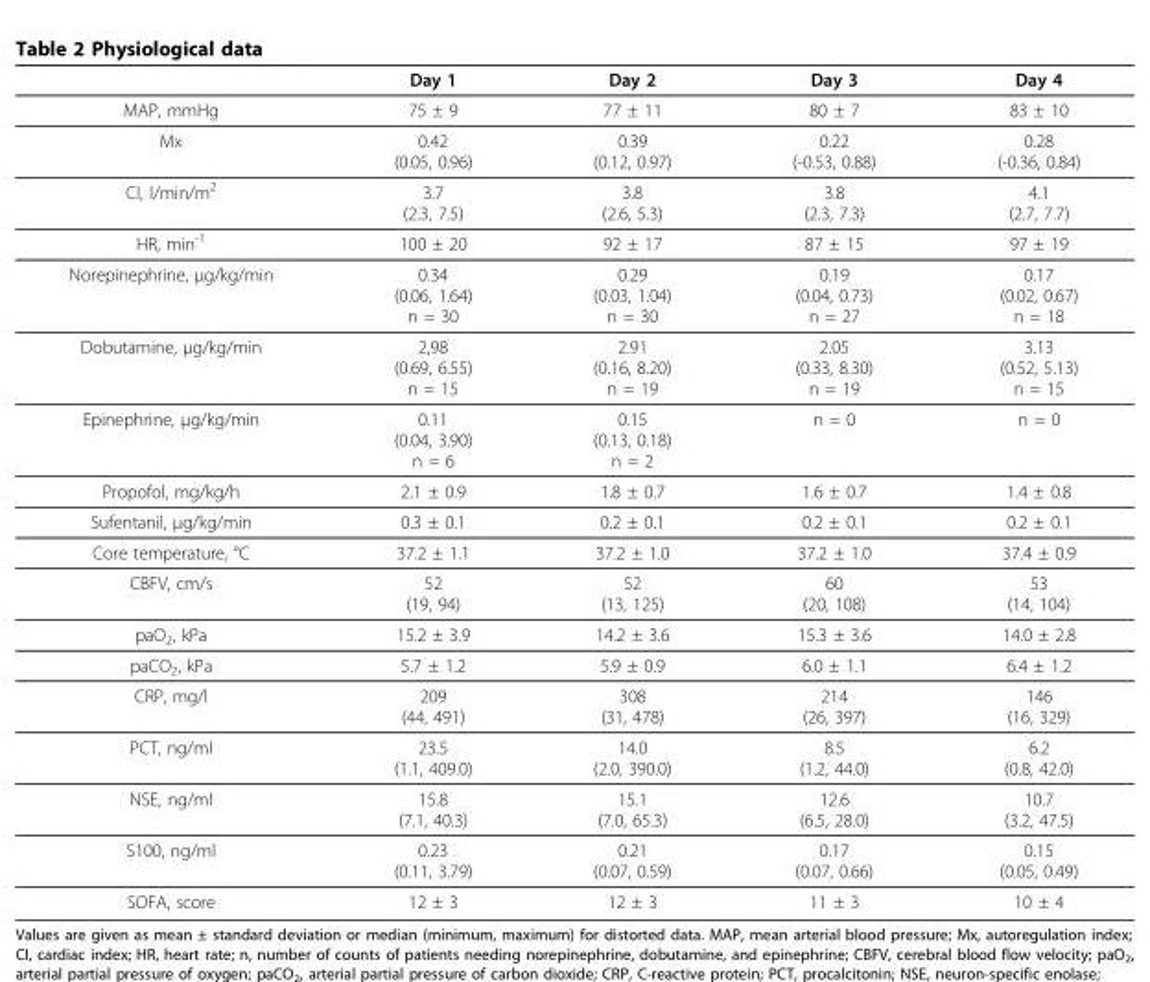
<table><thead><tr><td></td><td>Day 1</td><td>Day 2</td><td>Day 3</td><td>Day 4</td></tr></thead><tbody><tr><td>MAP, mmHg</td><td>75 ± 9</td><td>77 ± 11</td><td>80 ± 7</td><td>83 ± 10</td></tr><tr><td>Mx</td><td>0.42 (0.05, 0.96)</td><td>0.39 (0.12, 0.97)</td><td>0.22 (-0.53, 0.88)</td><td>0.28 (-0.36, 0.84)</td></tr><tr><td>CI, l/min/m<sup>2</sup></td><td>3.7 (2.3, 7.5)</td><td>3.8 (2.6, 5.3)</td><td>3.8 (2.3, 7.3)</td><td>4.1 (2.7, 7.7)</td></tr><tr><td>HR, min<sup>-1</sup></td><td>100 ± 20</td><td>92 ± 17</td><td>87 ± 15</td><td>97 ± 19</td></tr><tr><td>Norepinephrine, µg/kg/min</td><td>0.34 (0.06, 1.64) n = 30</td><td>0.29 (0.03, 1.04) n = 30</td><td>0.19 (0.04, 0.73) n = 27</td><td>0.17 (0.02, 0.67) n = 18</td></tr><tr><td>Dobutamine, µg/kg/min</td><td>2,98 (0.69, 6.55) n = 15</td><td>2.91 (0.16, 8.20) n = 19</td><td>2.05 (0.33, 8.30) n = 19</td><td>3.13 (0.52, 5.13) n = 15</td></tr><tr><td>Epinephrine, µg/kg/min</td><td>0.11 (0.04, 3.90) n = 6</td><td>0.15 (0.13, 0.18) n = 2</td><td>n = 0</td><td>n = 0</td></tr><tr><td>Propofol, mg/kg/h</td><td>2.1 ± 0.9</td><td>1.8 ± 0.7</td><td>1.6 ± 0.7</td><td>1.4 ± 0.8</td></tr><tr><td>Sufentanil, µg/kg/min</td><td>0.3 ± 0.1</td><td>0.2 ± 0.1</td><td>0.2 ± 0.1</td><td>0.2 ± 0.1</td></tr><tr><td>Core temperature, °C</td><td>37.2 ± 1.1</td><td>37.2 ± 1.0</td><td>37.2 ± 1.0</td><td>37.4 ± 0.9</td></tr><tr><td>CBFV, cm/s</td><td>52 (19, 94)</td><td>52 (13, 125)</td><td>60 (20, 108)</td><td>53 (14, 104)</td></tr><tr><td>paO<sub>2</sub>, kPa</td><td>15.2 ± 3.9</td><td>14.2 ± 3.6</td><td>15.3 ± 3.6</td><td>14.0 ± 2.8</td></tr><tr><td>paCO<sub>2</sub>, kPa</td><td>5.7 ± 1.2</td><td>5.9 ± 0.9</td><td>6.0 ± 1.1</td><td>6.4 ± 1.2</td></tr><tr><td>CRP, mg/l</td><td>209 (44, 491)</td><td>308 (31, 478)</td><td>214 (26, 397)</td><td>146 (16, 329)</td></tr><tr><td>PCT, ng/ml</td><td>23.5 (1.1, 409.0)</td><td>14.0 (2.0, 390.0)</td><td>8.5 (1.2, 44.0)</td><td>6.2 (0.8, 42.0)</td></tr><tr><td>NSE, ng/ml</td><td>15.8 (7.1, 40.3)</td><td>15.1 (7.0, 65.3)</td><td>12.6 (6.5, 28.0)</td><td>10.7 (3.2, 47.5)</td></tr><tr><td>S100, ng/ml</td><td>0.23 (0.11, 3.79)</td><td>0.21 (0.07, 0.59)</td><td>0.17 (0.07, 0.66)</td><td>0.15 (0.05, 0.49)</td></tr><tr><td>SOFA, score</td><td>12 ± 3</td><td>12 ± 3</td><td>11 ± 3</td><td>10 ± 4</td></tr></tbody></table>